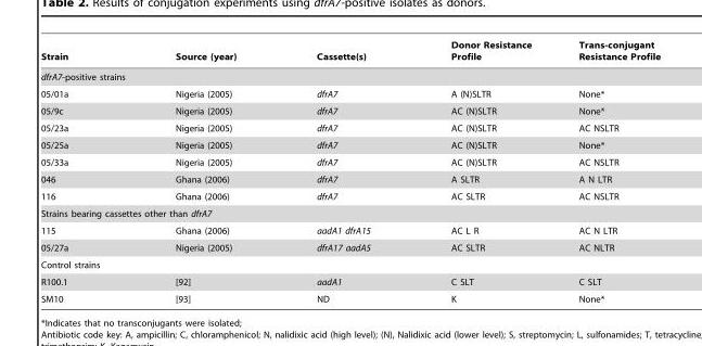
<table><thead><tr><td>Strain</td><td>Source (year)</td><td>Cassette(s)</td><td>Donor Resistance Profile</td><td>Trans-conjugant Resistance Profile</td></tr></thead><tbody><tr><td colspan="5">dfrA7-positive strains</td></tr><tr><td>05/01a</td><td>Nigeria (2005)</td><td>dfrA7</td><td>A (N)SLTR</td><td>None*</td></tr><tr><td>05/9c</td><td>Nigeria (2005)</td><td>dfrA7</td><td>AC (N)SLTR</td><td>None*</td></tr><tr><td>05/23a</td><td>Nigeria (2005)</td><td>dfrA7</td><td>AC (N)SLTR</td><td>AC NSLTR</td></tr><tr><td>05/25a</td><td>Nigeria (2005)</td><td>dfrA7</td><td>AC (N)SLTR</td><td>None*</td></tr><tr><td>05/33a</td><td>Nigeria (2005)</td><td>dfrA7</td><td>AC (N)SLTR</td><td>AC NSLTR</td></tr><tr><td>046</td><td>Ghana (2006)</td><td>dfrA7</td><td>A SLTR</td><td>A N LTR</td></tr><tr><td>116</td><td>Ghana (2006)</td><td>dfrA7</td><td>AC SLTR</td><td>AC NSLTR</td></tr><tr><td colspan="5">Strains bearing cassettes other than dfrA7</td></tr><tr><td>115</td><td>Ghana (2006)</td><td>aadA1 dfrA15</td><td>AC L R</td><td>AC N LTR</td></tr><tr><td>05/27a</td><td>Nigeria (2005)</td><td>dfrA17 aadA5</td><td>AC SLTR</td><td>AC NLTR</td></tr><tr><td colspan="5">Control strains</td></tr><tr><td>R100.1</td><td>[92]</td><td>aadA1</td><td>C SLT</td><td>C SLT</td></tr><tr><td>SM10</td><td>[93]</td><td>ND</td><td>K</td><td>None*</td></tr></tbody></table>